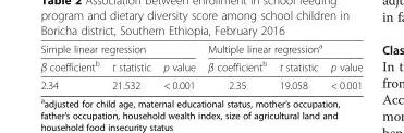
<table><thead><tr><td colspan="3">Simple linear regression</td><td colspan="3">Multiple linear regression<sup>a</sup></td></tr><tr><td>β coefficient<sup>b</sup></td><td>t statistic</td><td>p value</td><td>β coefficient<sup>b</sup></td><td>t statistic</td><td>p value</td></tr></thead><tbody><tr><td>2.34</td><td>21.532</td><td>&lt; 0.001</td><td>2.35</td><td>19.058</td><td>&lt; 0.001</td></tr></tbody></table>